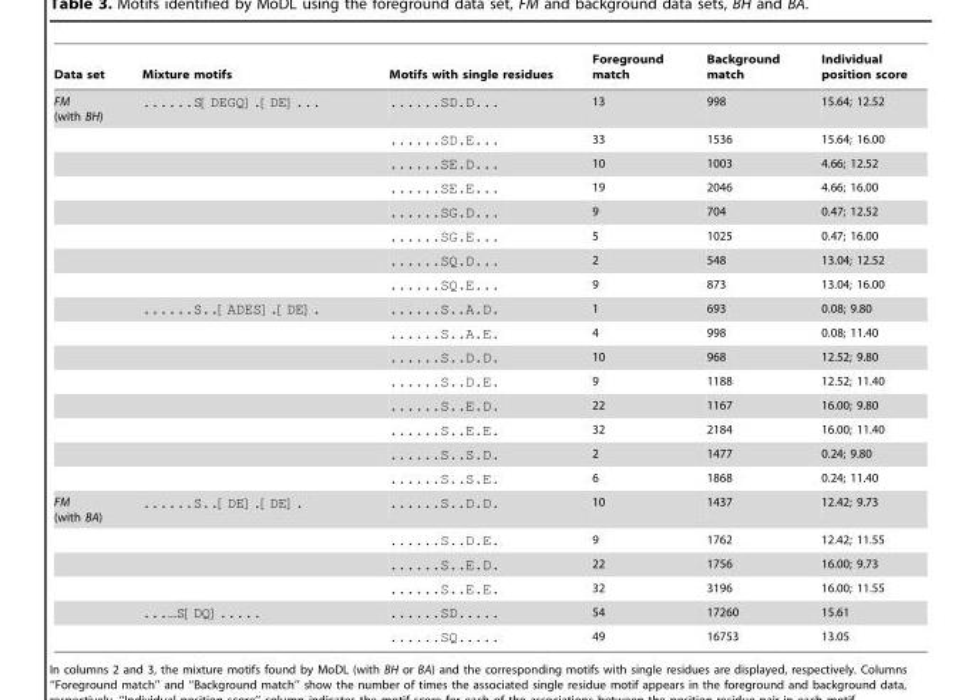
<table><thead><tr><td>Data set</td><td>Mixture motifs</td><td>Motifs with single residues</td><td>Foreground match</td><td>Background match</td><td>Individual position score</td></tr></thead><tbody><tr><td rowspan="16">FM (with BH)</td><td>......S[DEGQ].[DE]...</td><td>......SD.D...</td><td>13</td><td>998</td><td>15.64; 12.52</td></tr><tr><td></td><td>......SD.E...</td><td>33</td><td>1536</td><td>15.64; 16.00</td></tr><tr><td></td><td>......SE.D...</td><td>10</td><td>1003</td><td>4.66; 12.52</td></tr><tr><td></td><td>......SE.E...</td><td>19</td><td>2046</td><td>4.66; 16.00</td></tr><tr><td></td><td>......SG.D...</td><td>9</td><td>704</td><td>0.47; 12.52</td></tr><tr><td></td><td>......SG.E...</td><td>5</td><td>1025</td><td>0.47; 16.00</td></tr><tr><td></td><td>......SQ.D...</td><td>2</td><td>548</td><td>13.04; 12.52</td></tr><tr><td></td><td>......SQ.E...</td><td>9</td><td>873</td><td>13.04; 16.00</td></tr><tr><td>......S..[ADES].[DE].</td><td>......S..A.D.</td><td>1</td><td>693</td><td>0.08; 9.80</td></tr><tr><td></td><td>......S..A.E.</td><td>4</td><td>998</td><td>0.08; 11.40</td></tr><tr><td></td><td>......S..D.D.</td><td>10</td><td>968</td><td>12.52; 9.80</td></tr><tr><td></td><td>......S..D.E.</td><td>9</td><td>1188</td><td>12.52; 11.40</td></tr><tr><td></td><td>......S..E.D.</td><td>22</td><td>1167</td><td>16.00; 9.80</td></tr><tr><td></td><td>......S..E.E.</td><td>32</td><td>2184</td><td>16.00; 11.40</td></tr><tr><td></td><td>......S..S.D.</td><td>2</td><td>1477</td><td>0.24; 9.80</td></tr><tr><td></td><td>......S..S.E.</td><td>6</td><td>1868</td><td>0.24; 11.40</td></tr><tr><td rowspan="6">FM (with BA)</td><td>......S..[DE].[DE].</td><td>......S..D.D.</td><td>10</td><td>1437</td><td>12.42; 9.73</td></tr><tr><td></td><td>......S..D.E.</td><td>9</td><td>1762</td><td>12.42; 11.55</td></tr><tr><td></td><td>......S..E.D.</td><td>22</td><td>1756</td><td>16.00; 9.73</td></tr><tr><td></td><td>......S..E.E.</td><td>32</td><td>3196</td><td>16.00; 11.55</td></tr><tr><td>...…S[DQ].....</td><td>......SD.....</td><td>54</td><td>17260</td><td>15.61</td></tr><tr><td></td><td>......SQ.....</td><td>49</td><td>16753</td><td>13.05</td></tr></tbody></table>